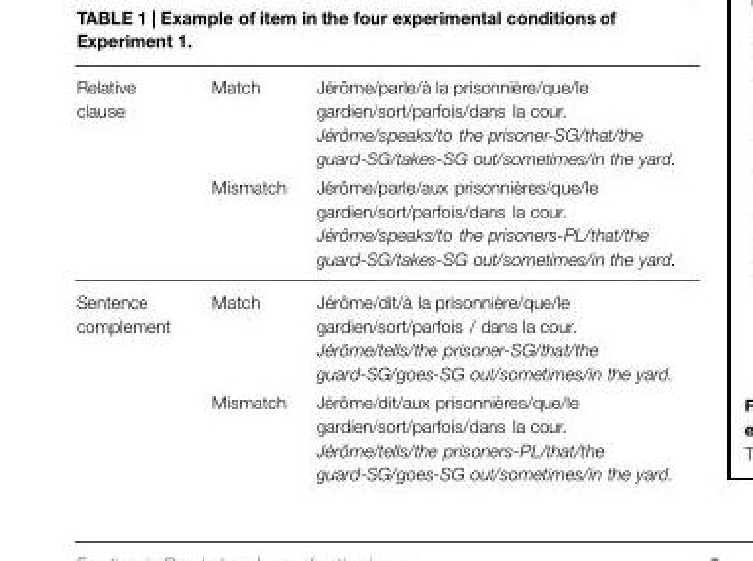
<table><tbody><tr><td rowspan="2">Relative clause</td><td>Match</td><td>Jérôme/parle/à la prisonnière/que/le gardien/sort/parfois/dans la cour. Jérôme/speaks/to the prisoner-SG/that/the guard-SG/takes-SG out/sometimes/in the yard.</td></tr><tr><td>Mismatch</td><td>Jérôme/parle/aux prisonnières/que/le gardien/sort/parfois/dans la cour. Jérôme/speaks/to the prisoners-PL/that/the guard-SG/takes-SG out/sometimes/in the yard.</td></tr><tr><td rowspan="2">Sentence complement</td><td>Match</td><td>Jérôme/dit/à la prisonnière/que/le gardien/sort/parfois / dans la cour. Jérôme/tells/the prisoner-SG/that/the guard-SG/goes-SG out/sometimes/in the yard.</td></tr><tr><td>Mismatch</td><td>Jérôme/dit/aux prisonnières/que/le gardien/sort/parfois/dans la cour. Jérôme/tells/the prisoners-PL/that/the guard-SG/goes-SG out/sometimes/in the yard.</td></tr></tbody></table>